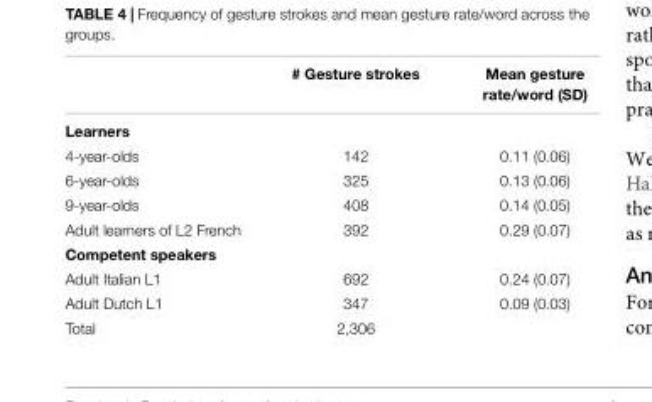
<table><thead><tr><td></td><td># Gesture strokes</td><td>Mean gesture rate/word (SD)</td></tr></thead><tbody><tr><td colspan="3">Learners</td></tr><tr><td>4-year-olds</td><td>142</td><td>0.11 (0.06)</td></tr><tr><td>6-year-olds</td><td>325</td><td>0.13 (0.06)</td></tr><tr><td>9-year-olds</td><td>408</td><td>0.14 (0.05)</td></tr><tr><td>Adult learners of L2 French</td><td>392</td><td>0.29 (0.07)</td></tr><tr><td colspan="3">Competent speakers</td></tr><tr><td>Adult Italian L1</td><td>692</td><td>0.24 (0.07)</td></tr><tr><td>Adult Dutch L1</td><td>347</td><td>0.09 (0.03)</td></tr><tr><td>Total</td><td>2,306</td><td></td></tr></tbody></table>